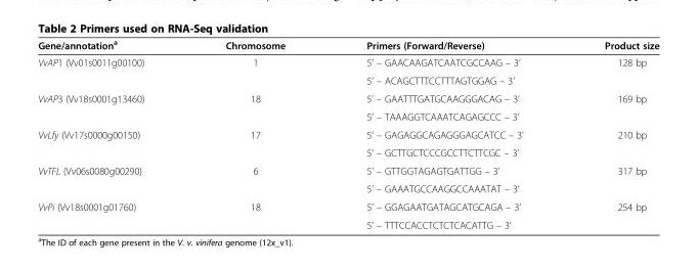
<table><thead><tr><td>Gene/annotation<sup>a</sup></td><td>Chromosome</td><td>Primers (Forward/Reverse)</td><td>Product size</td></tr></thead><tbody><tr><td rowspan="2">VvAP1 (Vv01s0011g00100)</td><td rowspan="2">1</td><td>5’ – GAACAAGATCAATCGCCAAG – 3’</td><td rowspan="2">128 bp</td></tr><tr><td>5’ – ACAGCTTTCCTTTAGTGGAG – 3’</td></tr><tr><td rowspan="2">VvAP3 (Vv18s0001g13460)</td><td rowspan="2">18</td><td>5’ – GAATTTGATGCAAGGGACAG – 3’</td><td rowspan="2">169 bp</td></tr><tr><td>5’ – TAAAGGTCAAATCAGAGCCC – 3’</td></tr><tr><td rowspan="2">VvLfy (Vv17s0000g00150)</td><td rowspan="2">17</td><td>5’ – GAGAGGCAGAGGGAGCATCC – 3’</td><td rowspan="2">210 bp</td></tr><tr><td>5’ – GCTTGCTCCCGCCTTCTTCGC – 3’</td></tr><tr><td rowspan="2">VvTFL (Vv06s0080g00290)</td><td rowspan="2">6</td><td>5’ – GTTGGTAGAGTGATTGG – 3’</td><td rowspan="2">317 bp</td></tr><tr><td>5’ – GAAATGCCAAGGCCAAATAT – 3’</td></tr><tr><td rowspan="2">VvPi (Vv18s0001g01760)</td><td rowspan="2">18</td><td>5’ – GGAGAATGATAGCATGCAGA – 3’</td><td rowspan="2">254 bp</td></tr><tr><td>5’ – TTTCCACCTCTCTCACATTG – 3’</td></tr></tbody></table>